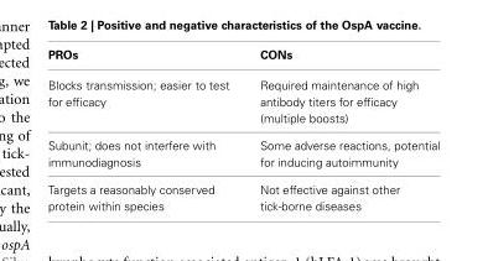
<table><thead><tr><td>PROs</td><td>CONs</td></tr></thead><tbody><tr><td>Blocks transmission; easier to test for efficacy</td><td>Required maintenance of high antibody titers for efficacy (multiple boosts)</td></tr><tr><td>Subunit; does not interfere with immunodiagnosis</td><td>Some adverse reactions, potential for inducing autoimmunity</td></tr><tr><td>Targets a reasonably conserved protein within species</td><td>Not effective against other tick-borne diseases</td></tr></tbody></table>